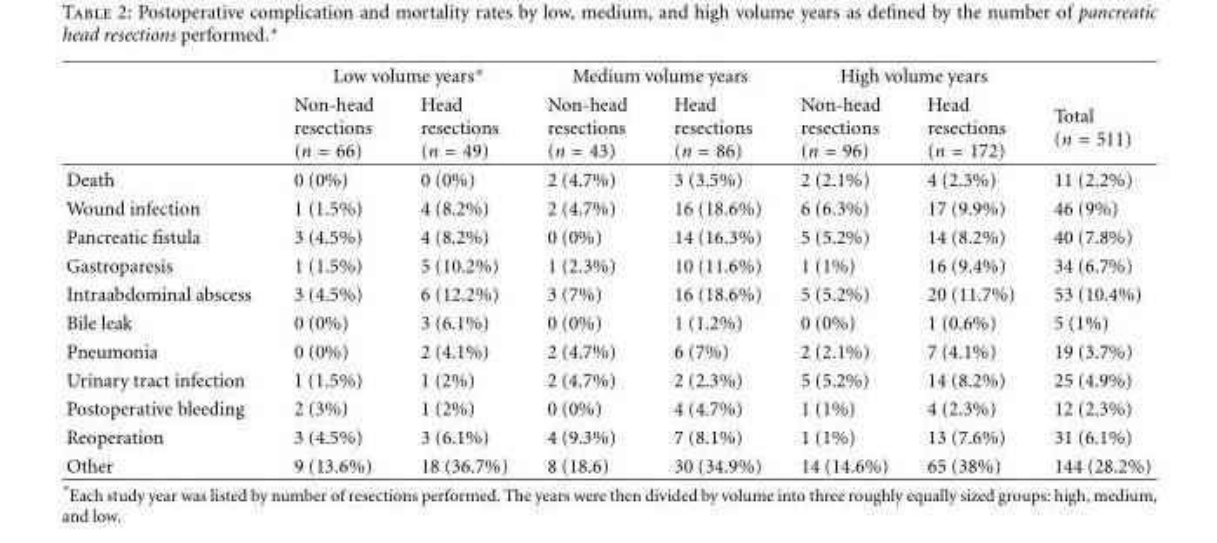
<table><thead><tr><td rowspan="2"></td><td colspan="2">Low volume years∗</td><td colspan="2">Medium volume years</td><td colspan="2">High volume years</td><td rowspan="2">Total (n = 511)</td></tr><tr><td>Non-head resections (n = 66)</td><td>Head resections (n = 49)</td><td>Non-head resections (n = 43)</td><td>Head resections (n = 86)</td><td>Non-head resections (n = 96)</td><td>Head resections (n = 172)</td></tr></thead><tbody><tr><td>Death</td><td>0 (0%)</td><td>0 (0%)</td><td>2 (4.7%)</td><td>3 (3.5%)</td><td>2 (2.1%)</td><td>4 (2.3%)</td><td>11 (2.2%)</td></tr><tr><td>Wound infection</td><td>1 (1.5%)</td><td>4 (8.2%)</td><td>2 (4.7%)</td><td>16 (18.6%)</td><td>6 (6.3%)</td><td>17 (9.9%)</td><td>46 (9%)</td></tr><tr><td>Pancreatic fistula</td><td>3 (4.5%)</td><td>4 (8.2%)</td><td>0 (0%)</td><td>14 (16.3%)</td><td>5 (5.2%)</td><td>14 (8.2%)</td><td>40 (7.8%)</td></tr><tr><td>Gastroparesis</td><td>1 (1.5%)</td><td>5 (10.2%)</td><td>1 (2.3%)</td><td>10 (11.6%)</td><td>1 (1%)</td><td>16 (9.4%)</td><td>34 (6.7%)</td></tr><tr><td>Intraabdominal abscess</td><td>3 (4.5%)</td><td>6 (12.2%)</td><td>3 (7%)</td><td>16 (18.6%)</td><td>5 (5.2%)</td><td>20 (11.7%)</td><td>53 (10.4%)</td></tr><tr><td>Bile leak</td><td>0 (0%)</td><td>3 (6.1%)</td><td>0 (0%)</td><td>1 (1.2%)</td><td>0 (0%)</td><td>1 (0.6%)</td><td>5 (1%)</td></tr><tr><td>Pneumonia</td><td>0 (0%)</td><td>2 (4.1%)</td><td>2 (4.7%)</td><td>6 (7%)</td><td>2 (2.1%)</td><td>7 (4.1%)</td><td>19 (3.7%)</td></tr><tr><td>Urinary tract infection</td><td>1 (1.5%)</td><td>1 (2%)</td><td>2 (4.7%)</td><td>2 (2.3%)</td><td>5 (5.2%)</td><td>14 (8.2%)</td><td>25 (4.9%)</td></tr><tr><td>Postoperative bleeding</td><td>2 (3%)</td><td>1 (2%)</td><td>0 (0%)</td><td>4 (4.7%)</td><td>1 (1%)</td><td>4 (2.3%)</td><td>12 (2.3%)</td></tr><tr><td>Reoperation</td><td>3 (4.5%)</td><td>3 (6.1%)</td><td>4 (9.3%)</td><td>7 (8.1%)</td><td>1 (1%)</td><td>13 (7.6%)</td><td>31 (6.1%)</td></tr><tr><td>Other</td><td>9 (13.6%)</td><td>18 (36.7%)</td><td>8 (18.6)</td><td>30 (34.9%)</td><td>14 (14.6%)</td><td>65 (38%)</td><td>144 (28.2%)</td></tr></tbody></table>